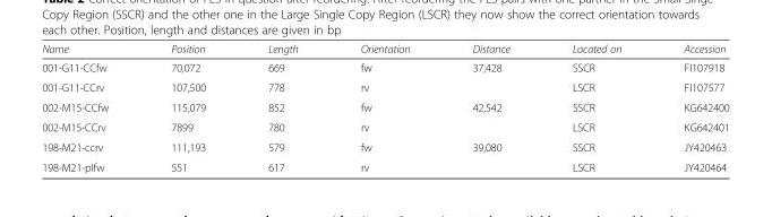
<table><thead><tr><td>Name</td><td>Position</td><td>Length</td><td>Orientation</td><td>Distance</td><td>Located on</td><td>Accession</td></tr></thead><tbody><tr><td>001-G11-CCfw</td><td>70,072</td><td>669</td><td>fw</td><td rowspan="2">37,428</td><td>SSCR</td><td>FI107918</td></tr><tr><td>001-G11-CCrv</td><td>107,500</td><td>778</td><td>rv</td><td>LSCR</td><td>FI107577</td></tr><tr><td>002-M15-CCfw</td><td>115,079</td><td>852</td><td>fw</td><td rowspan="2">42,542</td><td>SSCR</td><td>KG642400</td></tr><tr><td>002-M15-CCrv</td><td>7899</td><td>780</td><td>rv</td><td>LSCR</td><td>KG642401</td></tr><tr><td>198-M21-ccrv</td><td>111,193</td><td>579</td><td>fw</td><td rowspan="2">39,080</td><td>SSCR</td><td>JY420463</td></tr><tr><td>198-M21-pIfw</td><td>551</td><td>617</td><td>rv</td><td>LSCR</td><td>JY420464</td></tr></tbody></table>